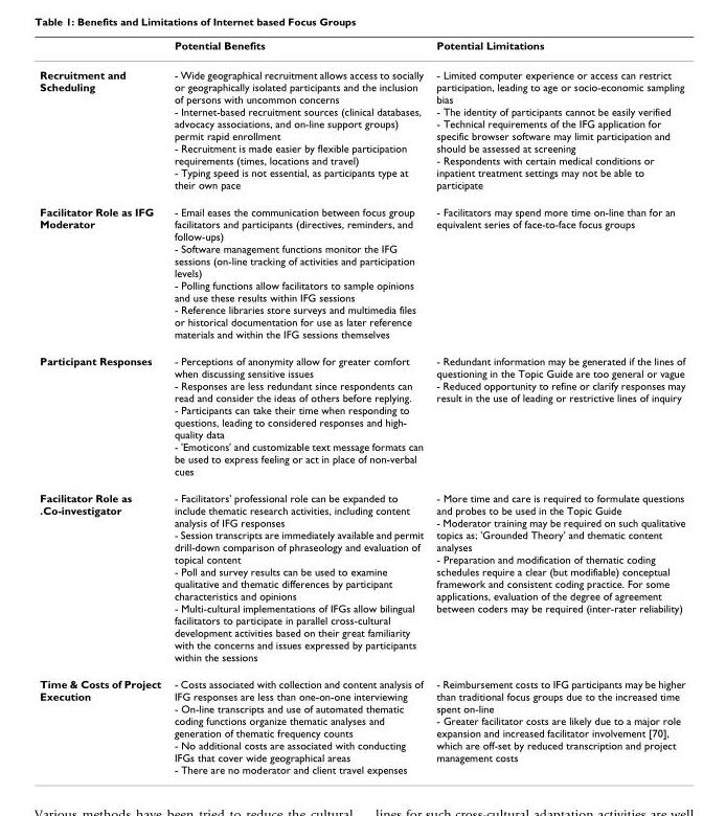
<table><thead><tr><td></td><td>Potential Benefits</td><td>Potential Limitations</td></tr></thead><tbody><tr><td>Recruitment and Scheduling</td><td>- Wide geographical recruitment allows access to socially or geographically isolated participants and the inclusion of persons with uncommon concerns - Internet-based recruitment sources (clinical databases, advocacy associations, and on-line support groups) permit rapid enrollment - Recruitment is made easier by flexible participation requirements (times, locations and travel) - Typing speed is not essential, as participants type at their own pace</td><td>- Limited computer experience or access can restrict participation, leading to age or socio-economic sampling bias - The identity of participants cannot be easily verified - Technical requirements of the IFG application for specific browser software may limit participation and should be assessed at screening - Respondents with certain medical conditions or inpatient treatment settings may not be able to participate</td></tr><tr><td>Facilitator Role as IFG Moderator</td><td>- Email eases the communication between focus group facilitators and participants (directives, reminders, and follow-ups) - Software management functions monitor the IFG sessions (on-line tracking of activities and participation levels) - Polling functions allow facilitators to sample opinions and use these results within IFG sessions - Reference libraries store surveys and multimedia files or historical documentation for use as later reference materials and within the IFG sessions themselves</td><td>- Facilitators may spend more time on-line than for an equivalent series of face-to-face focus groups</td></tr><tr><td>Participant Responses</td><td>- Perceptions of anonymity allow for greater comfort when discussing sensitive issues - Responses are less redundant since respondents can read and consider the ideas of others before replying. - Participants can take their time when responding to questions, leading to considered responses and high- quality data - &#x27;Emoticons&#x27; and customizable text message formats can be used to express feeling or act in place of non-verbal cues</td><td>- Redundant information may be generated if the lines of questioning in the Topic Guide are too general or vague - Reduced opportunity to refine or clarify responses may result in the use of leading or restrictive lines of inquiry</td></tr><tr><td>Facilitator Role as .Co-investigator</td><td>- Facilitators&#x27; professional role can be expanded to include thematic research activities, including content analysis of IFG responses - Session transcripts are immediately available and permit drill-down comparison of phraseology and evaluation of topical content - Poll and survey results can be used to examine qualitative and thematic differences by participant characteristics and opinions - Multi-cultural implementations of IFGs allow bilingual facilitators to participate in parallel cross-cultural development activities based on their great familiarity with the concerns and issues expressed by participants within the sessions</td><td>- More time and care is required to formulate questions and probes to be used in the Topic Guide - Moderator training may be required on such qualitative topics as; &#x27;Grounded Theory&#x27; and thematic content analyses - Preparation and modification of thematic coding schedules require a clear (but modifiable) conceptual framework and consistent coding practice. For some applications, evaluation of the degree of agreement between coders may be required (inter-rater reliability)</td></tr><tr><td>Time &amp; Costs of Project Execution</td><td>- Costs associated with collection and content analysis of IFG responses are less than one-on-one interviewing - On-line transcripts and use of automated thematic coding functions organize thematic analyses and generation of thematic frequency counts - No additional costs are associated with conducting IFGs that cover wide geographical areas - There are no moderator and client travel expenses</td><td>- Reimbursement costs to IFG participants may be higher than traditional focus groups due to the increased time spent on-line - Greater facilitator costs are likely due to a major role expansion and increased facilitator involvement [70], which are off-set by reduced transcription and project management costs</td></tr></tbody></table>